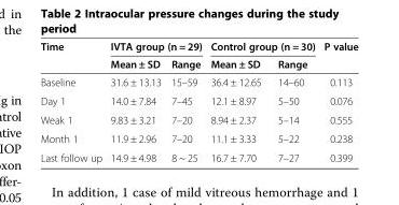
<table><thead><tr><td rowspan="2">Time</td><td colspan="2">IVTA group (n = 29)</td><td colspan="2">Control group (n = 30)</td><td rowspan="2">P value</td></tr><tr><td>Mean ± SD</td><td>Range</td><td>Mean ± SD</td><td>Range</td></tr></thead><tbody><tr><td>Baseline</td><td>31.6 ± 13.13</td><td>15–59</td><td>36.4 ± 12.65</td><td>14–60</td><td>0.113</td></tr><tr><td>Day 1</td><td>14.0 ± 7.84</td><td>7–45</td><td>12.1 ± 8.97</td><td>5–50</td><td>0.076</td></tr><tr><td>Weak 1</td><td>9.83 ± 3.21</td><td>7–20</td><td>8.94 ± 2.37</td><td>5–14</td><td>0.555</td></tr><tr><td>Month 1</td><td>11.9 ± 2.96</td><td>7–20</td><td>11.1 ± 3.33</td><td>5–22</td><td>0.238</td></tr><tr><td>Last follow up</td><td>14.9 ± 4.98</td><td>8 ~ 25</td><td>16.7 ± 7.70</td><td>7–27</td><td>0.399</td></tr></tbody></table>